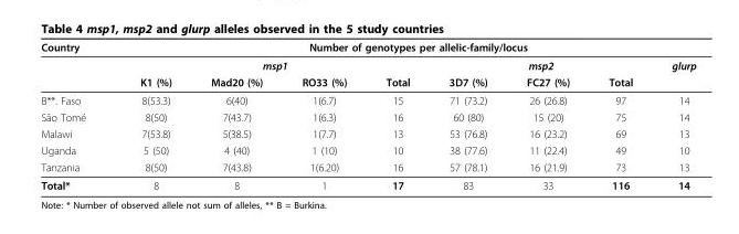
<table><thead><tr><td rowspan="3">Country</td><td colspan="8">Number of genotypes per allelic-family/locus</td></tr><tr><td colspan="4">msp1</td><td colspan="3">msp2</td><td rowspan="2">glurp</td></tr><tr><td>K1 (%)</td><td>Mad20 (%)</td><td>RO33 (%)</td><td>Total</td><td>3D7 (%)</td><td>FC27 (%)</td><td>Total</td></tr></thead><tbody><tr><td>B**. Faso</td><td>8(53.3)</td><td>6(40)</td><td>1(6.7)</td><td>15</td><td>71 (73.2)</td><td>26 (26.8)</td><td>97</td><td>14</td></tr><tr><td>São Tomé</td><td>8(50)</td><td>7(43.7)</td><td>1(6.3)</td><td>16</td><td>60 (80)</td><td>15 (20)</td><td>75</td><td>14</td></tr><tr><td>Malawi</td><td>7(53.8)</td><td>5(38.5)</td><td>1(7.7)</td><td>13</td><td>53 (76.8)</td><td>16 (23.2)</td><td>69</td><td>13</td></tr><tr><td>Uganda</td><td>5 (50)</td><td>4 (40)</td><td>1 (10)</td><td>10</td><td>38 (77.6)</td><td>11 (22.4)</td><td>49</td><td>10</td></tr><tr><td>Tanzania</td><td>8(50)</td><td>7(43.8)</td><td>1(6.20)</td><td>16</td><td>57 (78.1)</td><td>16 (21.9)</td><td>73</td><td>13</td></tr><tr><td>Total*</td><td>8</td><td>8</td><td>1</td><td>17</td><td>83</td><td>33</td><td>116</td><td>14</td></tr></tbody></table>